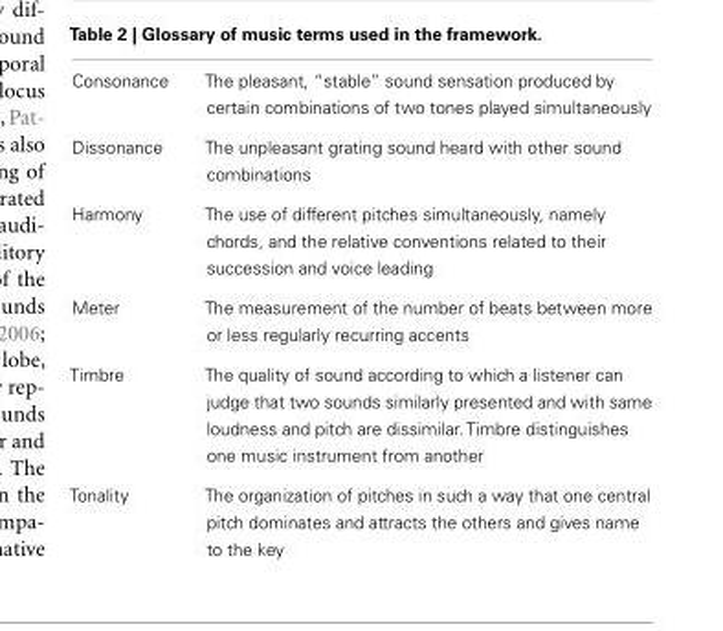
<table><tbody><tr><td>Consonance</td><td>The pleasant, “stable” sound sensation produced by certain combinations of two tones played simultaneously</td></tr><tr><td>Dissonance</td><td>The unpleasant grating sound heard with other sound combinations</td></tr><tr><td>Harmony</td><td>The use of different pitches simultaneously, namely chords, and the relative conventions related to their succession and voice leading</td></tr><tr><td>Meter</td><td>The measurement of the number of beats between more or less regularly recurring accents</td></tr><tr><td>Timbre</td><td>The quality of sound according to which a listener can judge that two sounds similarly presented and with same loudness and pitch are dissimilar. Timbre distinguishes one music instrument from another</td></tr><tr><td>Tonality</td><td>The organization of pitches in such a way that one central pitch dominates and attracts the others and gives name to the key</td></tr></tbody></table>